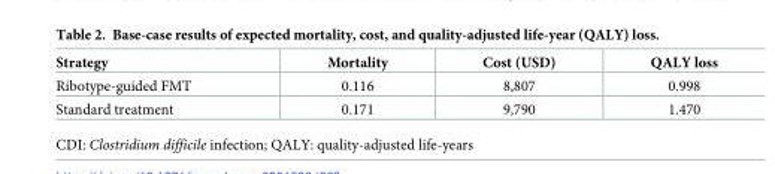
<table><thead><tr><td>Strategy</td><td>Mortality</td><td>Cost (USD)</td><td>QALY loss</td></tr></thead><tbody><tr><td>Ribotype-guided FMT</td><td>0.116</td><td>8,807</td><td>0.998</td></tr><tr><td>Standard treatment</td><td>0.171</td><td>9,790</td><td>1.470</td></tr></tbody></table>